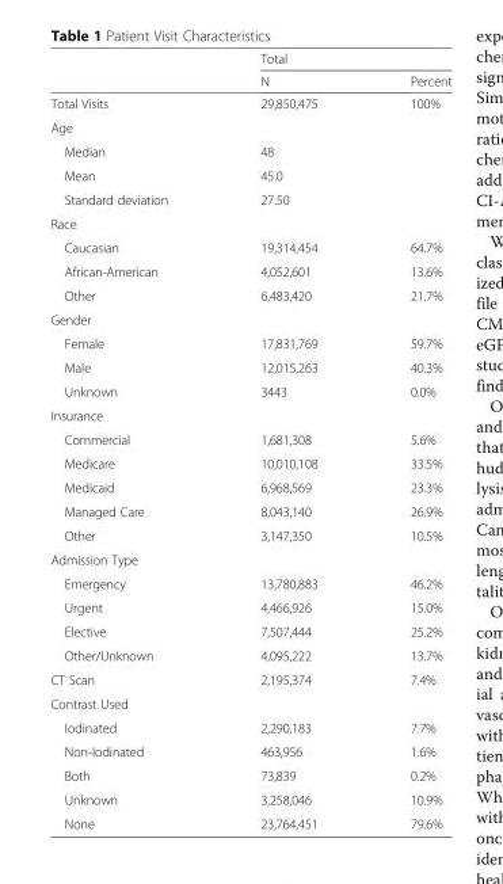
<table><thead><tr><td rowspan="2"></td><td colspan="2">Total</td></tr><tr><td>N</td><td>Percent</td></tr></thead><tbody><tr><td>Total Visits</td><td>29,850,475</td><td>100%</td></tr><tr><td colspan="3">Age</td></tr><tr><td>Median</td><td>48</td><td></td></tr><tr><td>Mean</td><td>45.0</td><td></td></tr><tr><td>Standard deviation</td><td>27.50</td><td></td></tr><tr><td colspan="3">Race</td></tr><tr><td>Caucasian</td><td>19,314,454</td><td>64.7%</td></tr><tr><td>African-American</td><td>4,052,601</td><td>13.6%</td></tr><tr><td>Other</td><td>6,483,420</td><td>21.7%</td></tr><tr><td colspan="3">Gender</td></tr><tr><td>Female</td><td>17,831,769</td><td>59.7%</td></tr><tr><td>Male</td><td>12,015,263</td><td>40.3%</td></tr><tr><td>Unknown</td><td>3443</td><td>0.0%</td></tr><tr><td colspan="3">Insurance</td></tr><tr><td>Commercial</td><td>1,681,308</td><td>5.6%</td></tr><tr><td>Medicare</td><td>10,010,108</td><td>33.5%</td></tr><tr><td>Medicaid</td><td>6,968,569</td><td>23.3%</td></tr><tr><td>Managed Care</td><td>8,043,140</td><td>26.9%</td></tr><tr><td>Other</td><td>3,147,350</td><td>10.5%</td></tr><tr><td colspan="3">Admission Type</td></tr><tr><td>Emergency</td><td>13,780,883</td><td>46.2%</td></tr><tr><td>Urgent</td><td>4,466,926</td><td>15.0%</td></tr><tr><td>Elective</td><td>7,507,444</td><td>25.2%</td></tr><tr><td>Other/Unknown</td><td>4,095,222</td><td>13.7%</td></tr><tr><td>CT Scan</td><td>2,195,374</td><td>7.4%</td></tr><tr><td colspan="3">Contrast Used</td></tr><tr><td>Iodinated</td><td>2,290,183</td><td>7.7%</td></tr><tr><td>Non-Iodinated</td><td>463,956</td><td>1.6%</td></tr><tr><td>Both</td><td>73,839</td><td>0.2%</td></tr><tr><td>Unknown</td><td>3,258,046</td><td>10.9%</td></tr><tr><td>None</td><td>23,764,451</td><td>79.6%</td></tr></tbody></table>